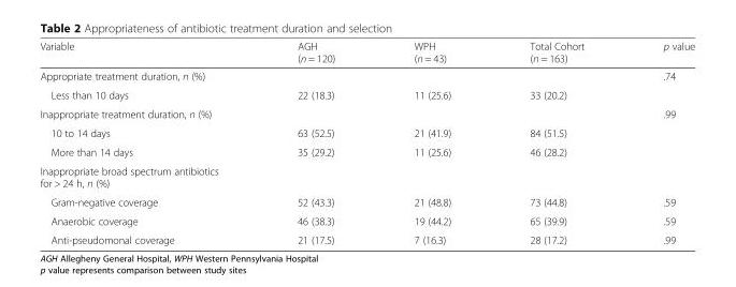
<table><thead><tr><td>Variable</td><td>AGH (n = 120)</td><td>WPH (n = 43)</td><td>Total Cohort (n = 163)</td><td>p value</td></tr></thead><tbody><tr><td>Appropriate treatment duration, n (%)</td><td></td><td></td><td></td><td>.74</td></tr><tr><td>Less than 10 days</td><td>22 (18.3)</td><td>11 (25.6)</td><td>33 (20.2)</td><td></td></tr><tr><td>Inappropriate treatment duration, n (%)</td><td></td><td></td><td></td><td>.99</td></tr><tr><td>10 to 14 days</td><td>63 (52.5)</td><td>21 (41.9)</td><td>84 (51.5)</td><td></td></tr><tr><td>More than 14 days</td><td>35 (29.2)</td><td>11 (25.6)</td><td>46 (28.2)</td><td></td></tr><tr><td colspan="5">Inappropriate broad spectrum antibiotics for &gt; 24 h, n (%)</td></tr><tr><td>Gram-negative coverage</td><td>52 (43.3)</td><td>21 (48.8)</td><td>73 (44.8)</td><td>.59</td></tr><tr><td>Anaerobic coverage</td><td>46 (38.3)</td><td>19 (44.2)</td><td>65 (39.9)</td><td>.59</td></tr><tr><td>Anti-pseudomonal coverage</td><td>21 (17.5)</td><td>7 (16.3)</td><td>28 (17.2)</td><td>.99</td></tr></tbody></table>